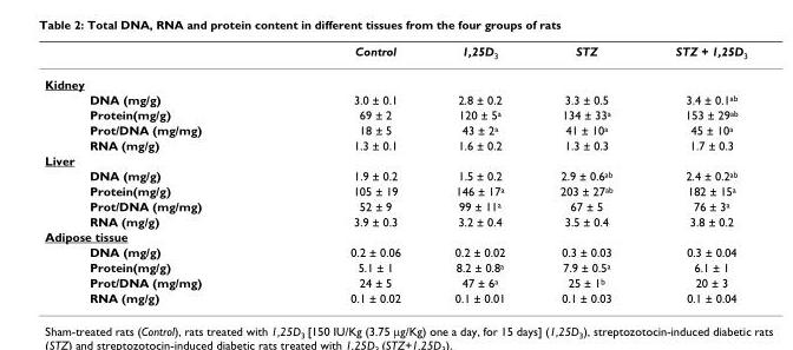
<table><thead><tr><td></td><td>Control</td><td>1,25D<sub>3</sub></td><td>STZ</td><td>STZ + 1,25D<sub>3</sub></td></tr></thead><tbody><tr><td colspan="5">Kidney</td></tr><tr><td>DNA (mg/g)</td><td>3.0 ± 0.1</td><td>2.8 ± 0.2</td><td>3.3 ± 0.5</td><td>3.4 ± 0.1<sup>ab</sup></td></tr><tr><td>Protein(mg/g)</td><td>69 ± 2</td><td>120 ± 5<sup>a</sup></td><td>134 ± 33<sup>a</sup></td><td>153 ± 29<sup>ab</sup></td></tr><tr><td>Prot/DNA (mg/mg)</td><td>18 ± 5</td><td>43 ± 2<sup>a</sup></td><td>41 ± 10<sup>a</sup></td><td>45 ± 10<sup>a</sup></td></tr><tr><td>RNA (mg/g)</td><td>1.3 ± 0.1</td><td>1.6 ± 0.2</td><td>1.3 ± 0.3</td><td>1.7 ± 0.3</td></tr><tr><td colspan="5">Liver</td></tr><tr><td>DNA (mg/g)</td><td>1.9 ± 0.2</td><td>1.5 ± 0.2</td><td>2.9 ± 0.6<sup>ab</sup></td><td>2.4 ± 0.2<sup>ab</sup></td></tr><tr><td>Protein(mg/g)</td><td>105 ± 19</td><td>146 ± 17<sup>a</sup></td><td>203 ± 27<sup>ab</sup></td><td>182 ± 15<sup>a</sup></td></tr><tr><td>Prot/DNA (mg/mg)</td><td>52 ± 9</td><td>99 ± 11<sup>a</sup></td><td>67 ± 5</td><td>76 ± 3<sup>a</sup></td></tr><tr><td>RNA (mg/g)</td><td>3.9 ± 0.3</td><td>3.2 ± 0.4</td><td>3.5 ± 0.4</td><td>3.8 ± 0.2</td></tr><tr><td colspan="5">Adipose tissue</td></tr><tr><td>DNA (mg/g)</td><td>0.2 ± 0.06</td><td>0.2 ± 0.02</td><td>0.3 ± 0.03</td><td>0.3 ± 0.04</td></tr><tr><td>Protein(mg/g)</td><td>5.1 ± 1</td><td>8.2 ± 0.8<sup>a</sup></td><td>7.9 ± 0.5<sup>a</sup></td><td>6.1 ± 1</td></tr><tr><td>Prot/DNA (mg/mg)</td><td>24 ± 5</td><td>47 ± 6<sup>a</sup></td><td>25 ± 1<sup>b</sup></td><td>20 ± 3</td></tr><tr><td>RNA (mg/g)</td><td>0.1 ± 0.02</td><td>0.1 ± 0.01</td><td>0.1 ± 0.03</td><td>0.1 ± 0.04</td></tr></tbody></table>